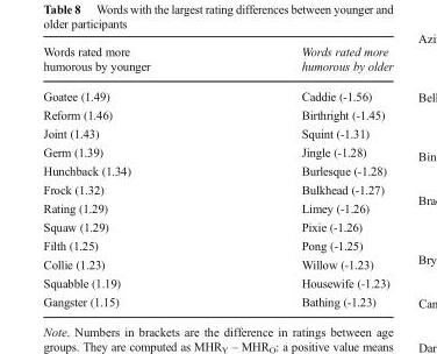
<table><thead><tr><td>Words rated more humorous by younger</td><td>Words rated more humorous by older</td></tr></thead><tbody><tr><td>Goatee (1.49)</td><td>Caddie (-1.56)</td></tr><tr><td>Reform (1.46)</td><td>Birthright (-1.45)</td></tr><tr><td>Joint (1.43)</td><td>Squint (-1.31)</td></tr><tr><td>Germ (1.39)</td><td>Jingle (-1.28)</td></tr><tr><td>Hunchback (1.34)</td><td>Burlesque (-1.28)</td></tr><tr><td>Frock (1.32)</td><td>Bulkhead (-1.27)</td></tr><tr><td>Rating (1.29)</td><td>Limey (-1.26)</td></tr><tr><td>Squaw (1.29)</td><td>Pixie (-1.26)</td></tr><tr><td>Filth (1.25)</td><td>Pong (-1.25)</td></tr><tr><td>Collie (1.23)</td><td>Willow (-1.23)</td></tr><tr><td>Squabble (1.19)</td><td>Housewife (-1.23)</td></tr><tr><td>Gangster (1.15)</td><td>Bathing (-1.23)</td></tr></tbody></table>